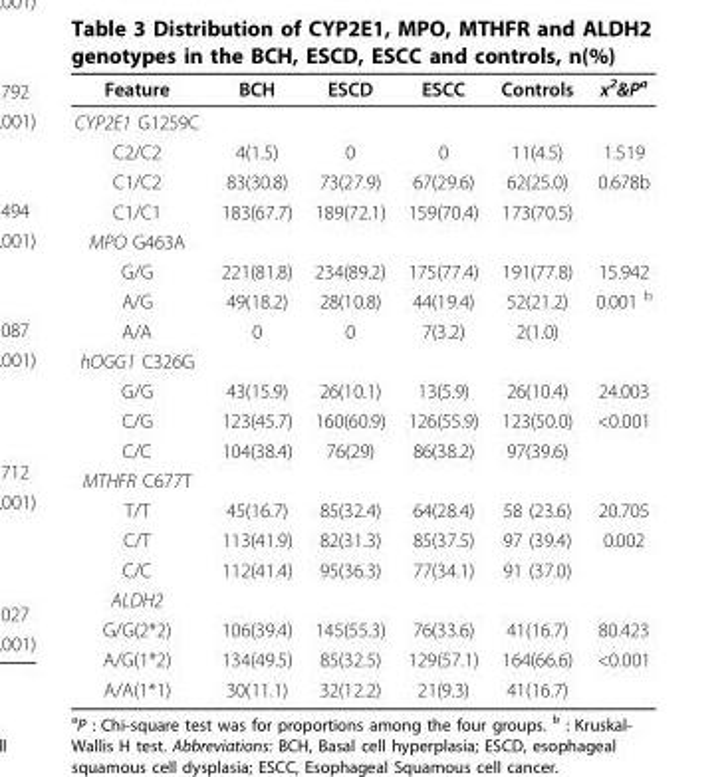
<table><thead><tr><td>Feature</td><td>BCH</td><td>ESCD</td><td>ESCC</td><td>Controls</td><td>x<sup>2</sup>&amp;P<sup>a</sup></td></tr></thead><tbody><tr><td colspan="6">CYP2E1 G1259C</td></tr><tr><td>C2/C2</td><td>4(1.5)</td><td>0</td><td>0</td><td>11(4.5)</td><td>1.519</td></tr><tr><td>C1/C2</td><td>83(30.8)</td><td>73(27.9)</td><td>67(29.6)</td><td>62(25.0)</td><td>0.678b</td></tr><tr><td>C1/C1</td><td>183(67.7)</td><td>189(72.1)</td><td>159(70.4)</td><td>173(70.5)</td><td></td></tr><tr><td colspan="6">MPO G463A</td></tr><tr><td>G/G</td><td>221(81.8)</td><td>234(89.2)</td><td>175(77.4)</td><td>191(77.8)</td><td>15.942</td></tr><tr><td>A/G</td><td>49(18.2)</td><td>28(10.8)</td><td>44(19.4)</td><td>52(21.2)</td><td>0.001 <sup>b</sup></td></tr><tr><td>A/A</td><td>0</td><td>0</td><td>7(3.2)</td><td>2(1.0)</td><td></td></tr><tr><td colspan="6">hOGG1 C326G</td></tr><tr><td>G/G</td><td>43(15.9)</td><td>26(10.1)</td><td>13(5.9)</td><td>26(10.4)</td><td>24.003</td></tr><tr><td>C/G</td><td>123(45.7)</td><td>160(60.9)</td><td>126(55.9)</td><td>123(50.0)</td><td>&lt;0.001</td></tr><tr><td>C/C</td><td>104(38.4)</td><td>76(29)</td><td>86(38.2)</td><td>97(39.6)</td><td></td></tr><tr><td colspan="6">MTHFR C677T</td></tr><tr><td>T/T</td><td>45(16.7)</td><td>85(32.4)</td><td>64(28.4)</td><td>58 (23.6)</td><td>20.705</td></tr><tr><td>C/T</td><td>113(41.9)</td><td>82(31.3)</td><td>85(37.5)</td><td>97 (39.4)</td><td>0.002</td></tr><tr><td>C/C</td><td>112(41.4)</td><td>95(36.3)</td><td>77(34.1)</td><td>91 (37.0)</td><td></td></tr><tr><td colspan="6">ALDH2</td></tr><tr><td>G/G(2*2)</td><td>106(39.4)</td><td>145(55.3)</td><td>76(33.6)</td><td>41(16.7)</td><td>80.423</td></tr><tr><td>A/G(1*2)</td><td>134(49.5)</td><td>85(32.5)</td><td>129(57.1)</td><td>164(66.6)</td><td>&lt;0.001</td></tr><tr><td>A/A(1*1)</td><td>30(11.1)</td><td>32(12.2)</td><td>21(9.3)</td><td>41(16.7)</td><td></td></tr></tbody></table>